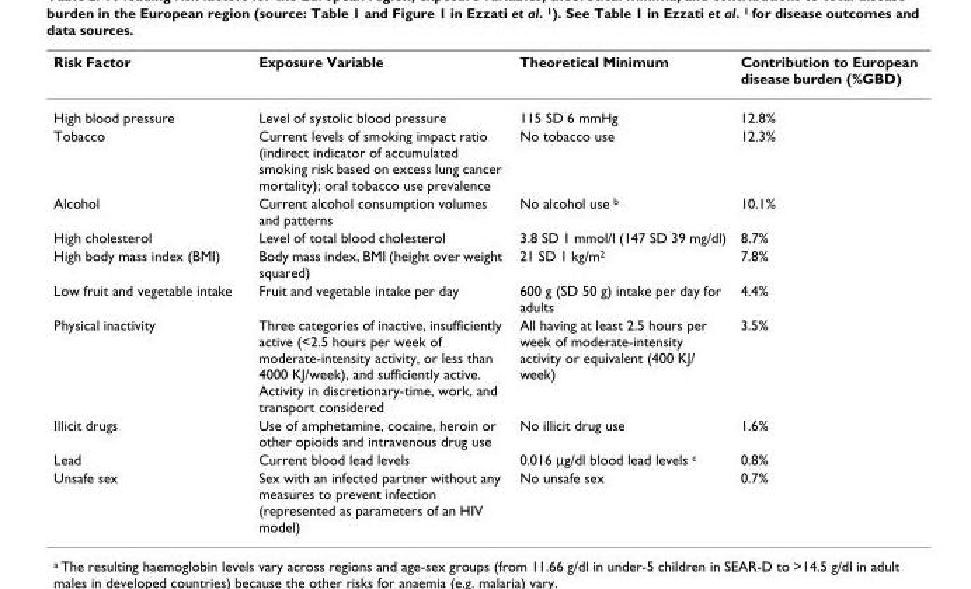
<table><thead><tr><td>Risk Factor</td><td>Exposure Variable</td><td>Theoretical Minimum</td><td>Contribution to European disease burden (%GBD)</td></tr></thead><tbody><tr><td>High blood pressure</td><td>Level of systolic blood pressure</td><td>115 SD 6 mmHg</td><td>12.8%</td></tr><tr><td>Tobacco</td><td>Current levels of smoking impact ratio (indirect indicator of accumulated smoking risk based on excess lung cancer mortality); oral tobacco use prevalence</td><td>No tobacco use</td><td>12.3%</td></tr><tr><td>Alcohol</td><td>Current alcohol consumption volumes and patterns</td><td>No alcohol use <sup>b</sup></td><td>10.1%</td></tr><tr><td>High cholesterol</td><td>Level of total blood cholesterol</td><td>3.8 SD 1 mmol/l (147 SD 39 mg/dl)</td><td>8.7%</td></tr><tr><td>High body mass index (BMI)</td><td>Body mass index, BMI (height over weight squared)</td><td>21 SD 1 kg/m<sup>2</sup></td><td>7.8%</td></tr><tr><td>Low fruit and vegetable intake</td><td>Fruit and vegetable intake per day</td><td>600 g (SD 50 g) intake per day for adults</td><td>4.4%</td></tr><tr><td>Physical inactivity</td><td>Three categories of inactive, insufficiently active (&lt;2.5 hours per week of moderate-intensity activity, or less than 4000 KJ/week), and sufficiently active. Activity in discretionary-time, work, and transport considered</td><td>All having at least 2.5 hours per week of moderate-intensity activity or equivalent (400 KJ/ week)</td><td>3.5%</td></tr><tr><td>Illicit drugs</td><td>Use of amphetamine, cocaine, heroin or other opioids and intravenous drug use</td><td>No illicit drug use</td><td>1.6%</td></tr><tr><td>Lead</td><td>Current blood lead levels</td><td>0.016 µg/dl blood lead levels <sup>c</sup></td><td>0.8%</td></tr><tr><td>Unsafe sex</td><td>Sex with an infected partner without any measures to prevent infection (represented as parameters of an HIV model)</td><td>No unsafe sex</td><td>0.7%</td></tr></tbody></table>